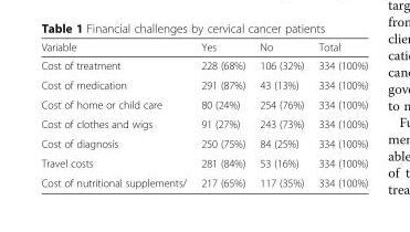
<table><thead><tr><td>Variable</td><td>Yes</td><td>No</td><td>Total</td></tr></thead><tbody><tr><td>Cost of treatment</td><td>228 (68%)</td><td>106 (32%)</td><td>334 (100%)</td></tr><tr><td>Cost of medication</td><td>291 (87%)</td><td>43 (13%)</td><td>334 (100%)</td></tr><tr><td>Cost of home or child care</td><td>80 (24%)</td><td>254 (76%)</td><td>334 (100%)</td></tr><tr><td>Cost of clothes and wigs</td><td>91 (27%)</td><td>243 (73%)</td><td>334 (100%)</td></tr><tr><td>Cost of diagnosis</td><td>250 (75%)</td><td>84 (25%)</td><td>334 (100%)</td></tr><tr><td>Travel costs</td><td>281 (84%)</td><td>53 (16%)</td><td>334 (100%)</td></tr><tr><td>Cost of nutritional supplements/</td><td>217 (65%)</td><td>117 (35%)</td><td>334 (100%)</td></tr></tbody></table>